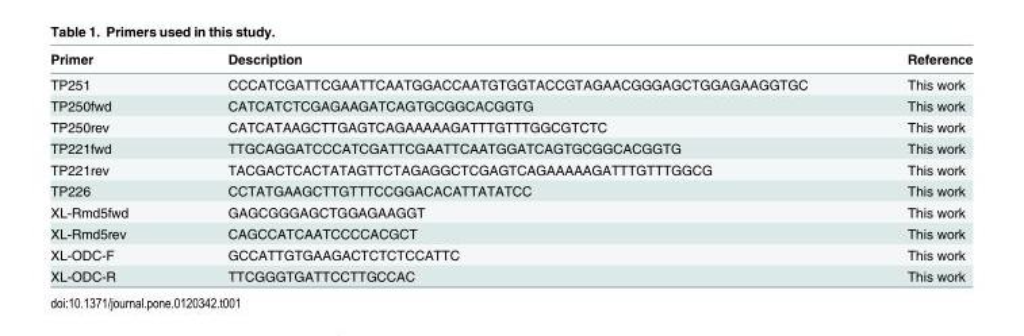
<table><thead><tr><td>Primer</td><td>Description</td><td>Reference</td></tr></thead><tbody><tr><td>TP251</td><td>CCCATCGATTCGAATTCAATGGACCAATGTGGTACCGTAGAACGGGAGCTGGAGAAGGTGC</td><td>This work</td></tr><tr><td>TP250fwd</td><td>CATCATCTCGAGAAGATCAGTGCGGCACGGTG</td><td>This work</td></tr><tr><td>TP250rev</td><td>CATCATAAGCTTGAGTCAGAAAAAGATTTGTTTGGCGTCTC</td><td>This work</td></tr><tr><td>TP221fwd</td><td>TTGCAGGATCCCATCGATTCGAATTCAATGGATCAGTGCGGCACGGTG</td><td>This work</td></tr><tr><td>TP221rev</td><td>TACGACTCACTATAGTTCTAGAGGCTCGAGTCAGAAAAAGATTTGTTTGGCG</td><td>This work</td></tr><tr><td>TP226</td><td>CCTATGAAGCTTGTTTCCGGACACATTATATCC</td><td>This work</td></tr><tr><td>XL-Rmd5fwd</td><td>GAGCGGGAGCTGGAGAAGGT</td><td>This work</td></tr><tr><td>XL-Rmd5rev</td><td>CAGCCATCAATCCCCACGCT</td><td>This work</td></tr><tr><td>XL-ODC-F</td><td>GCCATTGTGAAGACTCTCTCCATTC</td><td>This work</td></tr><tr><td>XL-ODC-R</td><td>TTCGGGTGATTCCTTGCCAC</td><td>This work</td></tr></tbody></table>